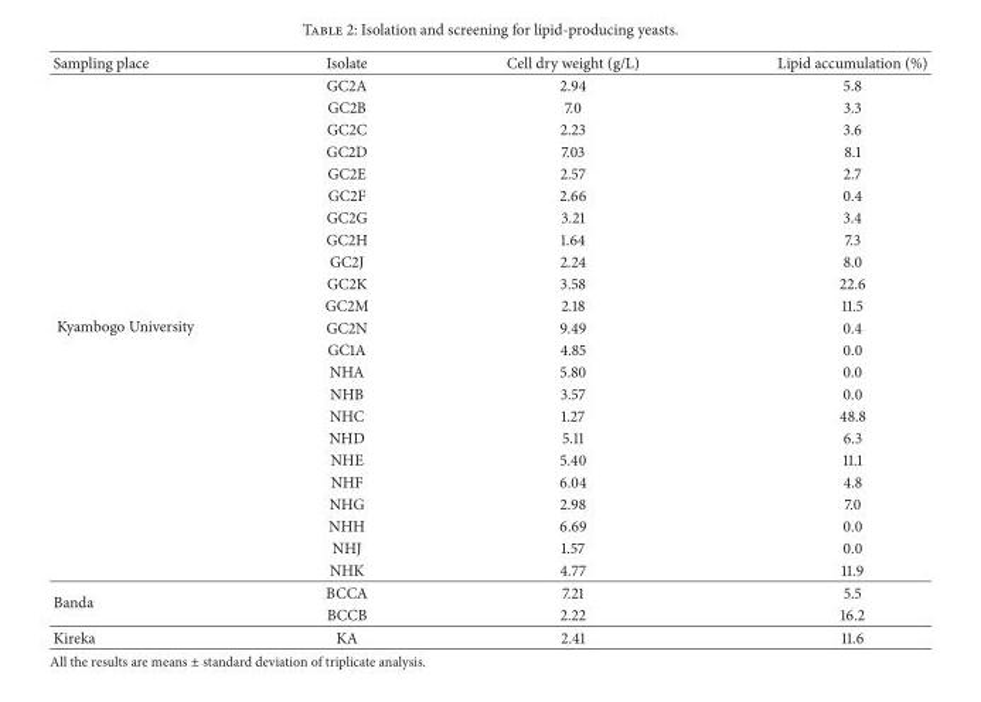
<table><thead><tr><td>Sampling place</td><td>Isolate</td><td>Cell dry weight (g/L)</td><td>Lipid accumulation (%)</td></tr></thead><tbody><tr><td rowspan="23">Kyambogo University</td><td>GC2A</td><td>2.94</td><td>5.8</td></tr><tr><td>GC2B</td><td>7.0</td><td>3.3</td></tr><tr><td>GC2C</td><td>2.23</td><td>3.6</td></tr><tr><td>GC2D</td><td>7.03</td><td>8.1</td></tr><tr><td>GC2E</td><td>2.57</td><td>2.7</td></tr><tr><td>GC2F</td><td>2.66</td><td>0.4</td></tr><tr><td>GC2G</td><td>3.21</td><td>3.4</td></tr><tr><td>GC2H</td><td>1.64</td><td>7.3</td></tr><tr><td>GC2J</td><td>2.24</td><td>8.0</td></tr><tr><td>GC2K</td><td>3.58</td><td>22.6</td></tr><tr><td>GC2M</td><td>2.18</td><td>11.5</td></tr><tr><td>GC2N</td><td>9.49</td><td>0.4</td></tr><tr><td>GC1A</td><td>4.85</td><td>0.0</td></tr><tr><td>NHA</td><td>5.80</td><td>0.0</td></tr><tr><td>NHB</td><td>3.57</td><td>0.0</td></tr><tr><td>NHC</td><td>1.27</td><td>48.8</td></tr><tr><td>NHD</td><td>5.11</td><td>6.3</td></tr><tr><td>NHE</td><td>5.40</td><td>11.1</td></tr><tr><td>NHF</td><td>6.04</td><td>4.8</td></tr><tr><td>NHG</td><td>2.98</td><td>7.0</td></tr><tr><td>NHH</td><td>6.69</td><td>0.0</td></tr><tr><td>NHJ</td><td>1.57</td><td>0.0</td></tr><tr><td>NHK</td><td>4.77</td><td>11.9</td></tr><tr><td rowspan="2">Banda</td><td>BCCA</td><td>7.21</td><td>5.5</td></tr><tr><td>BCCB</td><td>2.22</td><td>16.2</td></tr><tr><td>Kireka</td><td>KA</td><td>2.41</td><td>11.6</td></tr></tbody></table>